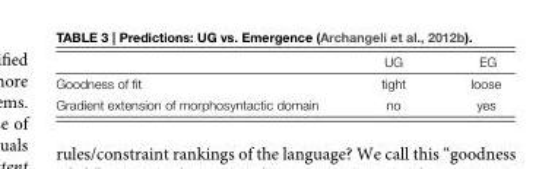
<table><thead><tr><td></td><td>UG</td><td>EG</td></tr></thead><tbody><tr><td>Goodness of fit</td><td>tight</td><td>loose</td></tr><tr><td>Gradient extension of morphosyntactic domain</td><td>no</td><td>yes</td></tr></tbody></table>